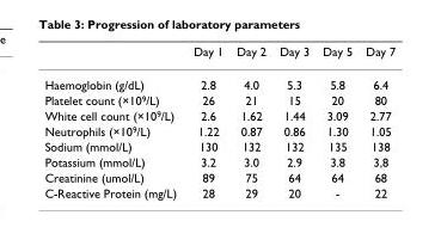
<table><thead><tr><td></td><td>Day 1</td><td>Day 2</td><td>Day 3</td><td>Day 5</td><td>Day 7</td></tr></thead><tbody><tr><td>Haemoglobin (g/dL)</td><td>2.8</td><td>4.0</td><td>5.3</td><td>5.8</td><td>6.4</td></tr><tr><td>Platelet count (×10<sup>9</sup>/L)</td><td>26</td><td>21</td><td>15</td><td>20</td><td>80</td></tr><tr><td>White cell count (×10<sup>9</sup>/L)</td><td>2.6</td><td>1.62</td><td>1.44</td><td>3.09</td><td>2.77</td></tr><tr><td>Neutrophils (×10<sup>9</sup>/L)</td><td>1.22</td><td>0.87</td><td>0.86</td><td>1.30</td><td>1.05</td></tr><tr><td>Sodium (mmol/L)</td><td>130</td><td>132</td><td>132</td><td>135</td><td>138</td></tr><tr><td>Potassium (mmol/L)</td><td>3.2</td><td>3.0</td><td>2.9</td><td>3.8</td><td>3,8</td></tr><tr><td>Creatinine (umol/L)</td><td>89</td><td>75</td><td>64</td><td>64</td><td>68</td></tr><tr><td>C-Reactive Protein (mg/L)</td><td>28</td><td>29</td><td>20</td><td>-</td><td>22</td></tr></tbody></table>